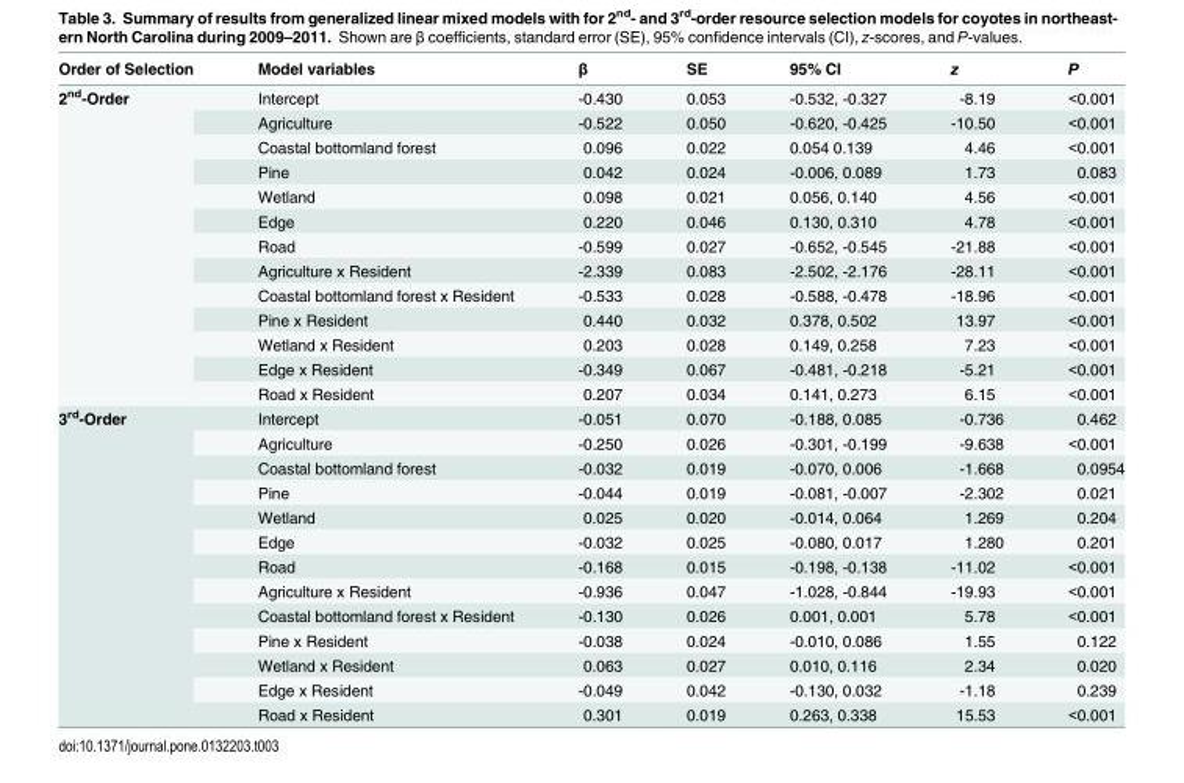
<table><thead><tr><td>Order of Selection</td><td>Model variables</td><td>β</td><td>SE</td><td>95% CI</td><td>z</td><td>P</td></tr></thead><tbody><tr><td rowspan="13">2<sup>nd</sup>-Order</td><td>Intercept</td><td>-0.430</td><td>0.053</td><td>-0.532, -0.327</td><td>-8.19</td><td>&lt;0.001</td></tr><tr><td>Agriculture</td><td>-0.522</td><td>0.050</td><td>-0.620, -0.425</td><td>-10.50</td><td>&lt;0.001</td></tr><tr><td>Coastal bottomland forest</td><td>0.096</td><td>0.022</td><td>0.054 0.139</td><td>4.46</td><td>&lt;0.001</td></tr><tr><td>Pine</td><td>0.042</td><td>0.024</td><td>-0.006, 0.089</td><td>1.73</td><td>0.083</td></tr><tr><td>Wetland</td><td>0.098</td><td>0.021</td><td>0.056, 0.140</td><td>4.56</td><td>&lt;0.001</td></tr><tr><td>Edge</td><td>0.220</td><td>0.046</td><td>0.130, 0.310</td><td>4.78</td><td>&lt;0.001</td></tr><tr><td>Road</td><td>-0.599</td><td>0.027</td><td>-0.652, -0.545</td><td>-21.88</td><td>&lt;0.001</td></tr><tr><td>Agriculture x Resident</td><td>-2.339</td><td>0.083</td><td>-2.502, -2.176</td><td>-28.11</td><td>&lt;0.001</td></tr><tr><td>Coastal bottomland forest x Resident</td><td>-0.533</td><td>0.028</td><td>-0.588, -0.478</td><td>-18.96</td><td>&lt;0.001</td></tr><tr><td>Pine x Resident</td><td>0.440</td><td>0.032</td><td>0.378, 0.502</td><td>13.97</td><td>&lt;0.001</td></tr><tr><td>Wetland x Resident</td><td>0.203</td><td>0.028</td><td>0.149, 0.258</td><td>7.23</td><td>&lt;0.001</td></tr><tr><td>Edge x Resident</td><td>-0.349</td><td>0.067</td><td>-0.481, -0.218</td><td>-5.21</td><td>&lt;0.001</td></tr><tr><td>Road x Resident</td><td>0.207</td><td>0.034</td><td>0.141, 0.273</td><td>6.15</td><td>&lt;0.001</td></tr><tr><td rowspan="13">3<sup>rd</sup>-Order</td><td>Intercept</td><td>-0.051</td><td>0.070</td><td>-0.188, 0.085</td><td>-0.736</td><td>0.462</td></tr><tr><td>Agriculture</td><td>-0.250</td><td>0.026</td><td>-0.301, -0.199</td><td>-9.638</td><td>&lt;0.001</td></tr><tr><td>Coastal bottomland forest</td><td>-0.032</td><td>0.019</td><td>-0.070, 0.006</td><td>-1.668</td><td>0.0954</td></tr><tr><td>Pine</td><td>-0.044</td><td>0.019</td><td>-0.081, -0.007</td><td>-2.302</td><td>0.021</td></tr><tr><td>Wetland</td><td>0.025</td><td>0.020</td><td>-0.014, 0.064</td><td>1.269</td><td>0.204</td></tr><tr><td>Edge</td><td>-0.032</td><td>0.025</td><td>-0.080, 0.017</td><td>1.280</td><td>0.201</td></tr><tr><td>Road</td><td>-0.168</td><td>0.015</td><td>-0.198, -0.138</td><td>-11.02</td><td>&lt;0.001</td></tr><tr><td>Agriculture x Resident</td><td>-0.936</td><td>0.047</td><td>-1.028, -0.844</td><td>-19.93</td><td>&lt;0.001</td></tr><tr><td>Coastal bottomland forest x Resident</td><td>-0.130</td><td>0.026</td><td>0.001, 0.001</td><td>5.78</td><td>&lt;0.001</td></tr><tr><td>Pine x Resident</td><td>-0.038</td><td>0.024</td><td>-0.010, 0.086</td><td>1.55</td><td>0.122</td></tr><tr><td>Wetland x Resident</td><td>0.063</td><td>0.027</td><td>0.010, 0.116</td><td>2.34</td><td>0.020</td></tr><tr><td>Edge x Resident</td><td>-0.049</td><td>0.042</td><td>-0.130, 0.032</td><td>-1.18</td><td>0.239</td></tr><tr><td>Road x Resident</td><td>0.301</td><td>0.019</td><td>0.263, 0.338</td><td>15.53</td><td>&lt;0.001</td></tr></tbody></table>